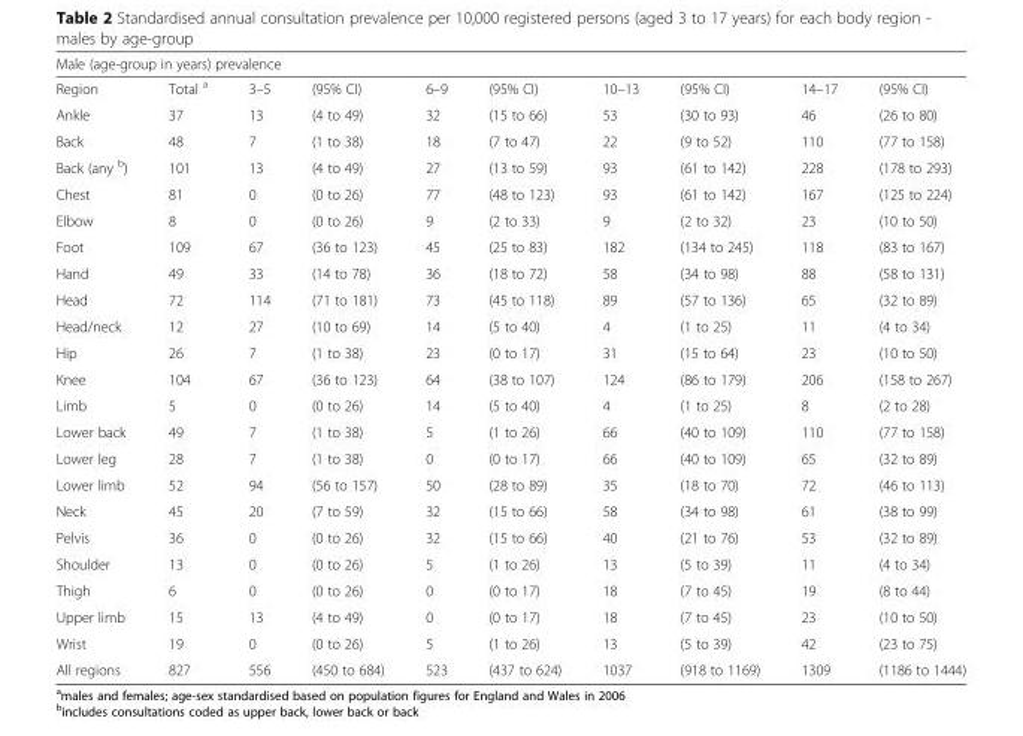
<table><thead><tr><td colspan="10">Male (age-group in years) prevalence</td></tr><tr><td>Region</td><td>Total <sup>a</sup></td><td>3–5</td><td>(95% CI)</td><td>6–9</td><td>(95% CI)</td><td>10–13</td><td>(95% CI)</td><td>14–17</td><td>(95% CI)</td></tr></thead><tbody><tr><td>Ankle</td><td>37</td><td>13</td><td>(4 to 49)</td><td>32</td><td>(15 to 66)</td><td>53</td><td>(30 to 93)</td><td>46</td><td>(26 to 80)</td></tr><tr><td>Back</td><td>48</td><td>7</td><td>(1 to 38)</td><td>18</td><td>(7 to 47)</td><td>22</td><td>(9 to 52)</td><td>110</td><td>(77 to 158)</td></tr><tr><td>Back (any <sup>b</sup>)</td><td>101</td><td>13</td><td>(4 to 49)</td><td>27</td><td>(13 to 59)</td><td>93</td><td>(61 to 142)</td><td>228</td><td>(178 to 293)</td></tr><tr><td>Chest</td><td>81</td><td>0</td><td>(0 to 26)</td><td>77</td><td>(48 to 123)</td><td>93</td><td>(61 to 142)</td><td>167</td><td>(125 to 224)</td></tr><tr><td>Elbow</td><td>8</td><td>0</td><td>(0 to 26)</td><td>9</td><td>(2 to 33)</td><td>9</td><td>(2 to 32)</td><td>23</td><td>(10 to 50)</td></tr><tr><td>Foot</td><td>109</td><td>67</td><td>(36 to 123)</td><td>45</td><td>(25 to 83)</td><td>182</td><td>(134 to 245)</td><td>118</td><td>(83 to 167)</td></tr><tr><td>Hand</td><td>49</td><td>33</td><td>(14 to 78)</td><td>36</td><td>(18 to 72)</td><td>58</td><td>(34 to 98)</td><td>88</td><td>(58 to 131)</td></tr><tr><td>Head</td><td>72</td><td>114</td><td>(71 to 181)</td><td>73</td><td>(45 to 118)</td><td>89</td><td>(57 to 136)</td><td>65</td><td>(32 to 89)</td></tr><tr><td>Head/neck</td><td>12</td><td>27</td><td>(10 to 69)</td><td>14</td><td>(5 to 40)</td><td>4</td><td>(1 to 25)</td><td>11</td><td>(4 to 34)</td></tr><tr><td>Hip</td><td>26</td><td>7</td><td>(1 to 38)</td><td>23</td><td>(0 to 17)</td><td>31</td><td>(15 to 64)</td><td>23</td><td>(10 to 50)</td></tr><tr><td>Knee</td><td>104</td><td>67</td><td>(36 to 123)</td><td>64</td><td>(38 to 107)</td><td>124</td><td>(86 to 179)</td><td>206</td><td>(158 to 267)</td></tr><tr><td>Limb</td><td>5</td><td>0</td><td>(0 to 26)</td><td>14</td><td>(5 to 40)</td><td>4</td><td>(1 to 25)</td><td>8</td><td>(2 to 28)</td></tr><tr><td>Lower back</td><td>49</td><td>7</td><td>(1 to 38)</td><td>5</td><td>(1 to 26)</td><td>66</td><td>(40 to 109)</td><td>110</td><td>(77 to 158)</td></tr><tr><td>Lower leg</td><td>28</td><td>7</td><td>(1 to 38)</td><td>0</td><td>(0 to 17)</td><td>66</td><td>(40 to 109)</td><td>65</td><td>(32 to 89)</td></tr><tr><td>Lower limb</td><td>52</td><td>94</td><td>(56 to 157)</td><td>50</td><td>(28 to 89)</td><td>35</td><td>(18 to 70)</td><td>72</td><td>(46 to 113)</td></tr><tr><td>Neck</td><td>45</td><td>20</td><td>(7 to 59)</td><td>32</td><td>(15 to 66)</td><td>58</td><td>(34 to 98)</td><td>61</td><td>(38 to 99)</td></tr><tr><td>Pelvis</td><td>36</td><td>0</td><td>(0 to 26)</td><td>32</td><td>(15 to 66)</td><td>40</td><td>(21 to 76)</td><td>53</td><td>(32 to 89)</td></tr><tr><td>Shoulder</td><td>13</td><td>0</td><td>(0 to 26)</td><td>5</td><td>(1 to 26)</td><td>13</td><td>(5 to 39)</td><td>11</td><td>(4 to 34)</td></tr><tr><td>Thigh</td><td>6</td><td>0</td><td>(0 to 26)</td><td>0</td><td>(0 to 17)</td><td>18</td><td>(7 to 45)</td><td>19</td><td>(8 to 44)</td></tr><tr><td>Upper limb</td><td>15</td><td>13</td><td>(4 to 49)</td><td>0</td><td>(0 to 17)</td><td>18</td><td>(7 to 45)</td><td>23</td><td>(10 to 50)</td></tr><tr><td>Wrist</td><td>19</td><td>0</td><td>(0 to 26)</td><td>5</td><td>(1 to 26)</td><td>13</td><td>(5 to 39)</td><td>42</td><td>(23 to 75)</td></tr><tr><td>All regions</td><td>827</td><td>556</td><td>(450 to 684)</td><td>523</td><td>(437 to 624)</td><td>1037</td><td>(918 to 1169)</td><td>1309</td><td>(1186 to 1444)</td></tr></tbody></table>